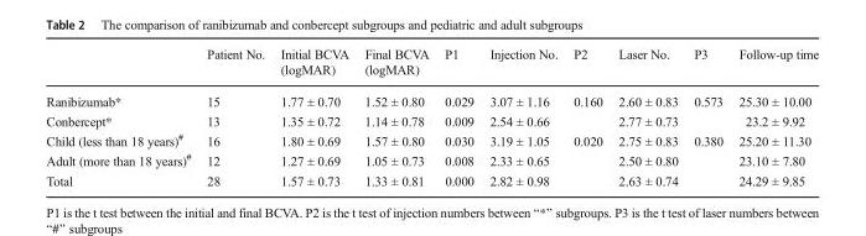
<table><thead><tr><td></td><td>Patient No.</td><td>Initial BCVA (logMAR)</td><td>Final BCVA (logMAR)</td><td>P1</td><td>Injection No.</td><td>P2</td><td>Laser No.</td><td>P3</td><td>Follow-up time</td></tr></thead><tbody><tr><td>Ranibizumab*</td><td>15</td><td>1.77 ± 0.70</td><td>1.52 ± 0.80</td><td>0.029</td><td>3.07 ± 1.16</td><td rowspan="2">0.160</td><td>2.60 ± 0.83</td><td rowspan="2">0.573</td><td>25.30 ± 10.00</td></tr><tr><td>Conbercept*</td><td>13</td><td>1.35 ± 0.72</td><td>1.14 ± 0.78</td><td>0.009</td><td>2.54 ± 0.66</td><td>2.77 ± 0.73</td><td>23.2 ± 9.92</td></tr><tr><td>Child (less than 18 years)<sup>#</sup></td><td>16</td><td>1.80 ± 0.69</td><td>1.57 ± 0.80</td><td>0.030</td><td>3.19 ± 1.05</td><td rowspan="2">0.020</td><td>2.75 ± 0.83</td><td rowspan="2">0.380</td><td>25.20 ± 11.30</td></tr><tr><td>Adult (more than 18 years)<sup>#</sup></td><td>12</td><td>1.27 ± 0.69</td><td>1.05 ± 0.73</td><td>0.008</td><td>2.33 ± 0.65</td><td>2.50 ± 0.80</td><td>23.10 ± 7.80</td></tr><tr><td>Total</td><td>28</td><td>1.57 ± 0.73</td><td>1.33 ± 0.81</td><td>0.000</td><td>2.82 ± 0.98</td><td></td><td>2.63 ± 0.74</td><td></td><td>24.29 ± 9.85</td></tr></tbody></table>